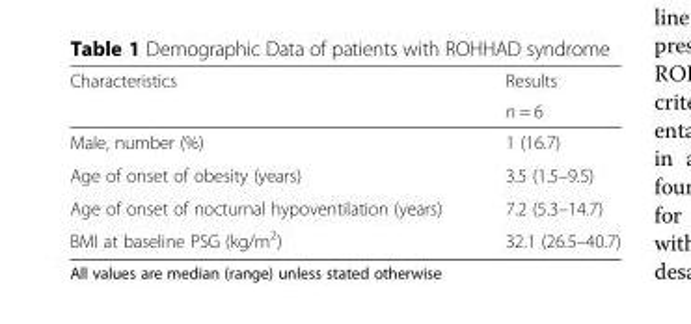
<table><thead><tr><td rowspan="2">Characteristics</td><td rowspan="2">Results n = 6</td></tr><tr></tr></thead><tbody><tr><td>Male, number (%)</td><td>1 (16.7)</td></tr><tr><td>Age of onset of obesity (years)</td><td>3.5 (1.5–9.5)</td></tr><tr><td>Age of onset of nocturnal hypoventilation (years)</td><td>7.2 (5.3–14.7)</td></tr><tr><td>BMI at baseline PSG (kg/m<sup>2</sup>)</td><td>32.1 (26.5–40.7)</td></tr></tbody></table>